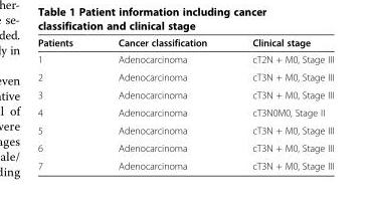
<table><thead><tr><td>Patients</td><td>Cancer classification</td><td>Clinical stage</td></tr></thead><tbody><tr><td>1</td><td>Adenocarcinoma</td><td>cT2N + M0, Stage III</td></tr><tr><td>2</td><td>Adenocarcinoma</td><td>cT3N + M0, Stage III</td></tr><tr><td>3</td><td>Adenocarcinoma</td><td>cT3N + M0, Stage III</td></tr><tr><td>4</td><td>Adenocarcinoma</td><td>cT3N0M0, Stage II</td></tr><tr><td>5</td><td>Adenocarcinoma</td><td>cT3N + M0, Stage III</td></tr><tr><td>6</td><td>Adenocarcinoma</td><td>cT3N + M0, Stage III</td></tr><tr><td>7</td><td>Adenocarcinoma</td><td>cT3N + M0, Stage III</td></tr></tbody></table>